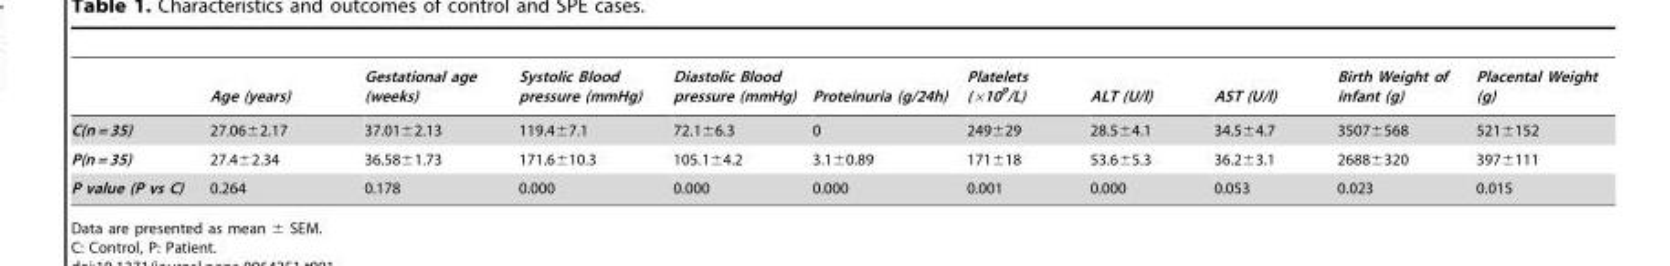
<table><thead><tr><td></td><td>Age (years)</td><td>Gestational age (weeks)</td><td>Systolic Blood pressure (mmHg)</td><td>Diastolic Blood pressure (mmHg)</td><td>Proteinuria (g/24h)</td><td>Platelets (×10<sup>9</sup>/L)</td><td>ALT (U/l)</td><td>AST (U/l)</td><td>Birth Weight of infant (g)</td><td>Placental Weight (g)</td></tr></thead><tbody><tr><td>C(n = 35)</td><td>27.06±2.17</td><td>37.01±2.13</td><td>119.4±7.1</td><td>72.1±6.3</td><td>0</td><td>249±29</td><td>28.5±4.1</td><td>34.5±4.7</td><td>3507±568</td><td>521±152</td></tr><tr><td>P(n = 35)</td><td>27.4±2.34</td><td>36.58±1.73</td><td>171.6±10.3</td><td>105.1±4.2</td><td>3.1±0.89</td><td>171±18</td><td>53.6±5.3</td><td>36.2±3.1</td><td>2688±320</td><td>397±111</td></tr><tr><td>P value (P vs C)</td><td>0.264</td><td>0.178</td><td>0.000</td><td>0.000</td><td>0.000</td><td>0.001</td><td>0.000</td><td>0.053</td><td>0.023</td><td>0.015</td></tr></tbody></table>